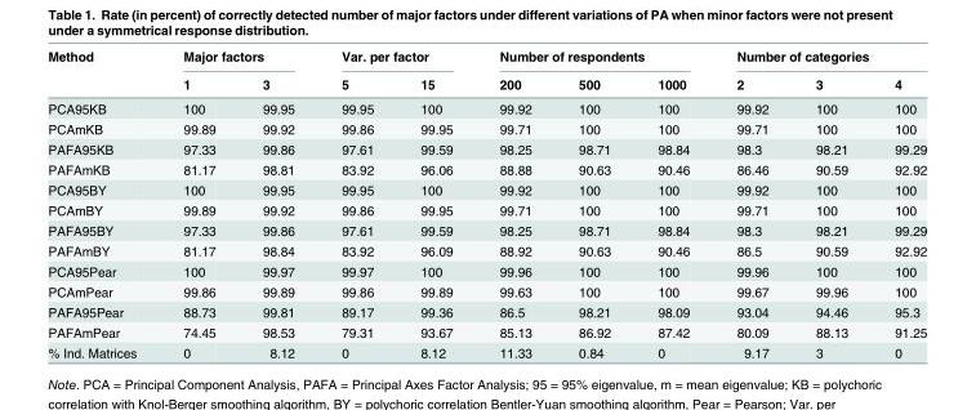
<table><thead><tr><td rowspan="2">Method</td><td colspan="2">Major factors</td><td colspan="2">Var. per factor</td><td colspan="3">Number of respondents</td><td colspan="3">Number of categories</td></tr><tr><td>1</td><td>3</td><td>5</td><td>15</td><td>200</td><td>500</td><td>1000</td><td>2</td><td>3</td><td>4</td></tr></thead><tbody><tr><td>PCA95KB</td><td>100</td><td>99.95</td><td>99.95</td><td>100</td><td>99.92</td><td>100</td><td>100</td><td>99.92</td><td>100</td><td>100</td></tr><tr><td>PCAmKB</td><td>99.89</td><td>99.92</td><td>99.86</td><td>99.95</td><td>99.71</td><td>100</td><td>100</td><td>99.71</td><td>100</td><td>100</td></tr><tr><td>PAFA95KB</td><td>97.33</td><td>99.86</td><td>97.61</td><td>99.59</td><td>98.25</td><td>98.71</td><td>98.84</td><td>98.3</td><td>98.21</td><td>99.29</td></tr><tr><td>PAFAmKB</td><td>81.17</td><td>98.81</td><td>83.92</td><td>96.06</td><td>88.88</td><td>90.63</td><td>90.46</td><td>86.46</td><td>90.59</td><td>92.92</td></tr><tr><td>PCA95BY</td><td>100</td><td>99.95</td><td>99.95</td><td>100</td><td>99.92</td><td>100</td><td>100</td><td>99.92</td><td>100</td><td>100</td></tr><tr><td>PCAmBY</td><td>99.89</td><td>99.92</td><td>99.86</td><td>99.95</td><td>99.71</td><td>100</td><td>100</td><td>99.71</td><td>100</td><td>100</td></tr><tr><td>PAFA95BY</td><td>97.33</td><td>99.86</td><td>97.61</td><td>99.59</td><td>98.25</td><td>98.71</td><td>98.84</td><td>98.3</td><td>98.21</td><td>99.29</td></tr><tr><td>PAFAmBY</td><td>81.17</td><td>98.84</td><td>83.92</td><td>96.09</td><td>88.92</td><td>90.63</td><td>90.46</td><td>86.5</td><td>90.59</td><td>92.92</td></tr><tr><td>PCA95Pear</td><td>100</td><td>99.97</td><td>99.97</td><td>100</td><td>99.96</td><td>100</td><td>100</td><td>99.96</td><td>100</td><td>100</td></tr><tr><td>PCAmPear</td><td>99.86</td><td>99.89</td><td>99.86</td><td>99.89</td><td>99.63</td><td>100</td><td>100</td><td>99.67</td><td>99.96</td><td>100</td></tr><tr><td>PAFA95Pear</td><td>88.73</td><td>99.81</td><td>89.17</td><td>99.36</td><td>86.5</td><td>98.21</td><td>98.09</td><td>93.04</td><td>94.46</td><td>95.3</td></tr><tr><td>PAFAmPear</td><td>74.45</td><td>98.53</td><td>79.31</td><td>93.67</td><td>85.13</td><td>86.92</td><td>87.42</td><td>80.09</td><td>88.13</td><td>91.25</td></tr><tr><td>% Ind. Matrices</td><td>0</td><td>8.12</td><td>0</td><td>8.12</td><td>11.33</td><td>0.84</td><td>0</td><td>9.17</td><td>3</td><td>0</td></tr></tbody></table>